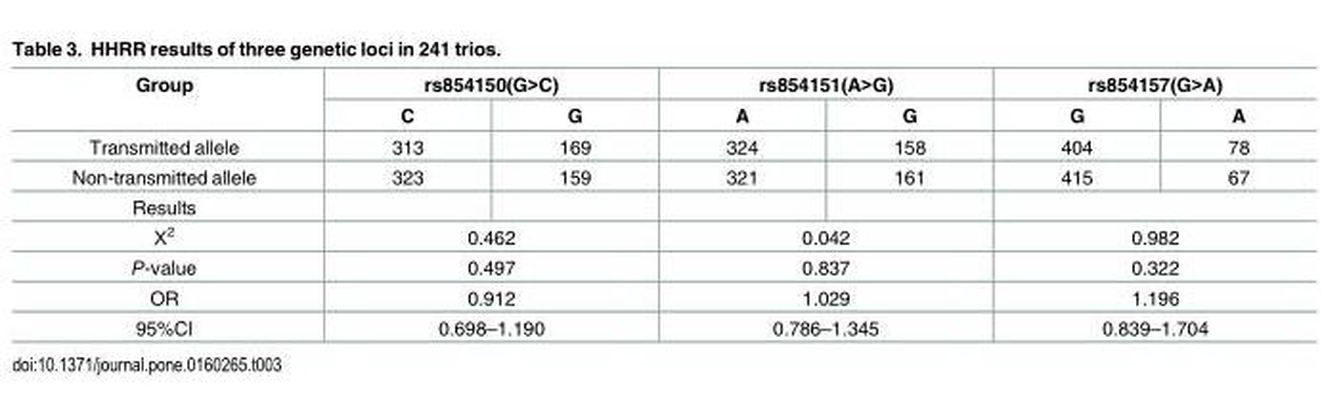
<table><thead><tr><td rowspan="2">Group</td><td colspan="2">rs854150(G&gt;C)</td><td colspan="2">rs854151(A&gt;G)</td><td colspan="2">rs854157(G&gt;A)</td></tr><tr><td>C</td><td>G</td><td>A</td><td>G</td><td>G</td><td>A</td></tr></thead><tbody><tr><td>Transmitted allele</td><td>313</td><td>169</td><td>324</td><td>158</td><td>404</td><td>78</td></tr><tr><td>Non-transmitted allele</td><td>323</td><td>159</td><td>321</td><td>161</td><td>415</td><td>67</td></tr><tr><td colspan="7">Results</td></tr><tr><td>Χ<sup>2</sup></td><td colspan="2">0.462</td><td colspan="2">0.042</td><td colspan="2">0.982</td></tr><tr><td>P-value</td><td colspan="2">0.497</td><td colspan="2">0.837</td><td colspan="2">0.322</td></tr><tr><td>OR</td><td colspan="2">0.912</td><td colspan="2">1.029</td><td colspan="2">1.196</td></tr><tr><td>95%CI</td><td colspan="2">0.698–1.190</td><td colspan="2">0.786–1.345</td><td colspan="2">0.839–1.704</td></tr></tbody></table>